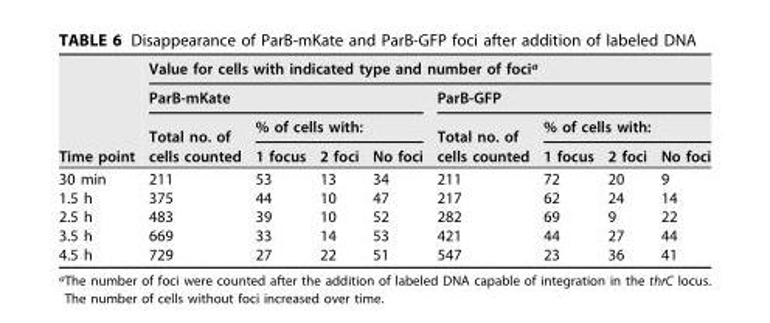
<table><thead><tr><td rowspan="4">Time point</td><td colspan="8">Value for cells with indicated type and number of foci<sup>a</sup></td></tr><tr><td colspan="4">ParB-mKate</td><td colspan="4">ParB-GFP</td></tr><tr><td rowspan="2">Total no. of cells counted</td><td colspan="3">% of cells with:</td><td rowspan="2">Total no. of cells counted</td><td colspan="3">% of cells with:</td></tr><tr><td>1 focus</td><td>2 foci</td><td>No foci</td><td>1 focus</td><td>2 foci</td><td>No foci</td></tr></thead><tbody><tr><td>30 min</td><td>211</td><td>53</td><td>13</td><td>34</td><td>211</td><td>72</td><td>20</td><td>9</td></tr><tr><td>1.5 h</td><td>375</td><td>44</td><td>10</td><td>47</td><td>217</td><td>62</td><td>24</td><td>14</td></tr><tr><td>2.5 h</td><td>483</td><td>39</td><td>10</td><td>52</td><td>282</td><td>69</td><td>9</td><td>22</td></tr><tr><td>3.5 h</td><td>669</td><td>33</td><td>14</td><td>53</td><td>421</td><td>44</td><td>27</td><td>44</td></tr><tr><td>4.5 h</td><td>729</td><td>27</td><td>22</td><td>51</td><td>547</td><td>23</td><td>36</td><td>41</td></tr></tbody></table>